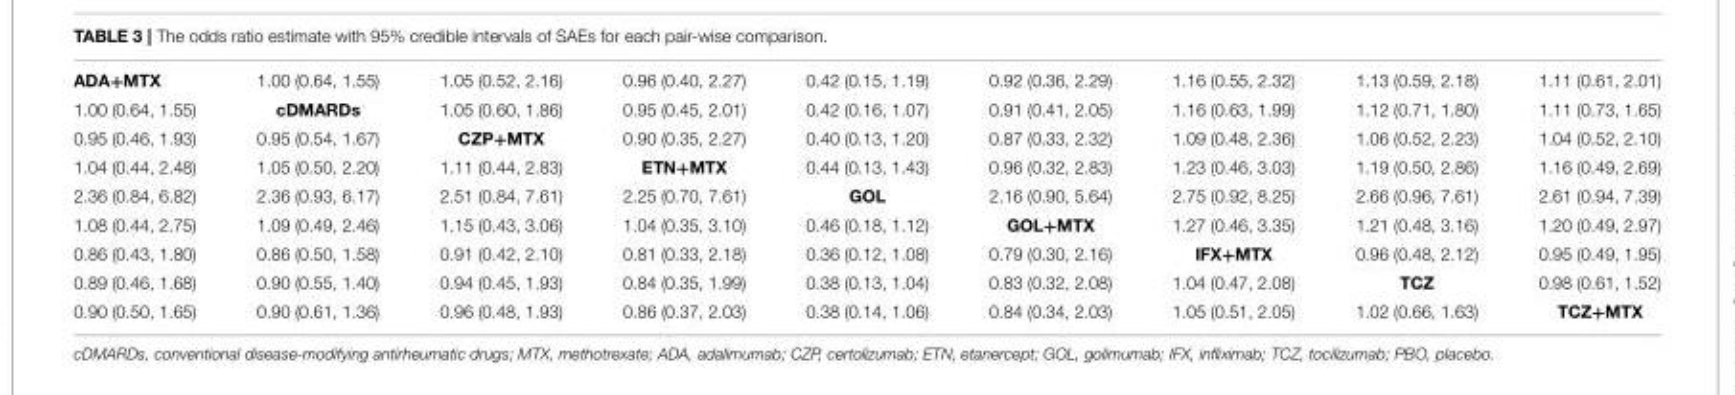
<table><tbody><tr><td>ADA+MTX</td><td>1.00 (0.64, 1.55)</td><td>1.05 (0.52, 2.16)</td><td>0.96 (0.40, 2.27)</td><td>0.42 (0.15, 1.19)</td><td>0.92 (0.36, 2.29)</td><td>1.16 (0.55, 2.32)</td><td>1.13 (0.59, 2.18)</td><td>1.11 (0.61, 2.01)</td></tr><tr><td>1.00 (0.64, 1.55)</td><td>cDMARDs</td><td>1.05 (0.60, 1.86)</td><td>0.95 (0.45, 2.01)</td><td>0.42 (0.16, 1.07)</td><td>0.91 (0.41, 2.05)</td><td>1.16 (0.63, 1.99)</td><td>1.12 (0.71, 1.80)</td><td>1.11 (0.73, 1.65)</td></tr><tr><td>0.95 (0.46, 1.93)</td><td>0.95 (0.54, 1.67)</td><td>CZP+MTX</td><td>0.90 (0.35, 2.27)</td><td>0.40 (0.13, 1.20)</td><td>0.87 (0.33, 2.32)</td><td>1.09 (0.48, 2.36)</td><td>1.06 (0.52, 2.23)</td><td>1.04 (0.52, 2.10)</td></tr><tr><td>1.04 (0.44, 2.48)</td><td>1.05 (0.50, 2.20)</td><td>1.11 (0.44, 2.83)</td><td>ETN+MTX</td><td>0.44 (0.13, 1.43)</td><td>0.96 (0.32, 2.83)</td><td>1.23 (0.46, 3.03)</td><td>1.19 (0.50, 2.86)</td><td>1.16 (0.49, 2.69)</td></tr><tr><td>2.36 (0.84, 6.82)</td><td>2.36 (0.93, 6.17)</td><td>2.51 (0.84, 7.61)</td><td>2.25 (0.70, 7.61)</td><td>GOL</td><td>2.16 (0.90, 5.64)</td><td>2.75 (0.92, 8.25)</td><td>2.66 (0.96, 7.61)</td><td>2.61 (0.94, 7.39)</td></tr><tr><td>1.08 (0.44, 2.75)</td><td>1.09 (0.49, 2.46)</td><td>1.15 (0.43, 3.06)</td><td>1.04 (0.35, 3.10)</td><td>0.46 (0.18, 1.12)</td><td>GOL+MTX</td><td>1.27 (0.46, 3.35)</td><td>1.21 (0.48, 3.16)</td><td>1.20 (0.49, 2.97)</td></tr><tr><td>0.86 (0.43, 1.80)</td><td>0.86 (0.50, 1.58)</td><td>0.91 (0.42, 2.10)</td><td>0.81 (0.33, 2.18)</td><td>0.36 (0.12, 1.08)</td><td>0.79 (0.30, 2.16)</td><td>IFX+MTX</td><td>0.96 (0.48, 2.12)</td><td>0.95 (0.49, 1.95)</td></tr><tr><td>0.89 (0.46, 1.68)</td><td>0.90 (0.55, 1.40)</td><td>0.94 (0.45, 1.93)</td><td>0.84 (0.35, 1.99)</td><td>0.38 (0.13, 1.04)</td><td>0.83 (0.32, 2.08)</td><td>1.04 (0.47, 2.08)</td><td>TCZ</td><td>0.98 (0.61, 1.52)</td></tr><tr><td>0.90 (0.50, 1.65)</td><td>0.90 (0.61, 1.36)</td><td>0.96 (0.48, 1.93)</td><td>0.86 (0.37, 2.03)</td><td>0.38 (0.14, 1.06)</td><td>0.84 (0.34, 2.03)</td><td>1.05 (0.51, 2.05)</td><td>1.02 (0.66, 1.63)</td><td>TCZ+MTX</td></tr></tbody></table>